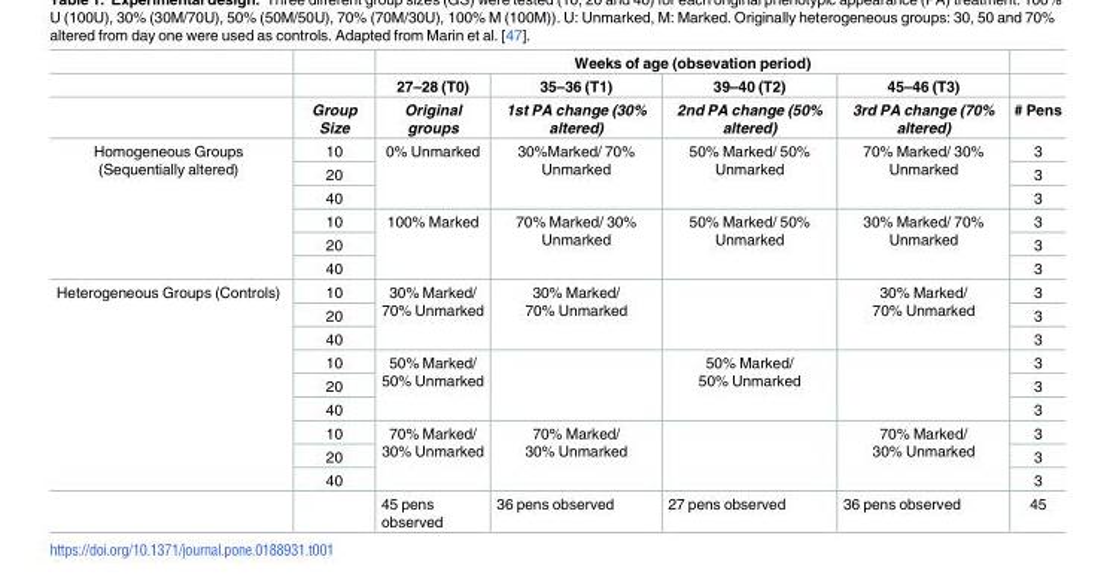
<table><thead><tr><td rowspan="3"></td><td rowspan="3">Group Size</td><td colspan="4">Weeks of age (obsevation period)</td><td rowspan="3"># Pens</td></tr><tr><td rowspan="2">27–28 (T0) Original groups</td><td rowspan="2">35–36 (T1) 1st PA change (30% altered)</td><td rowspan="2">39–40 (T2) 2nd PA change (50% altered)</td><td rowspan="2">45–46 (T3) 3rd PA change (70% altered)</td></tr><tr></tr></thead><tbody><tr><td rowspan="6">Homogeneous Groups (Sequentially altered)</td><td>10</td><td rowspan="3">0% Unmarked</td><td rowspan="3">30%Marked/ 70% Unmarked</td><td rowspan="3">50% Marked/ 50% Unmarked</td><td rowspan="3">70% Marked/ 30% Unmarked</td><td>3</td></tr><tr><td>20</td><td>3</td></tr><tr><td>40</td><td>3</td></tr><tr><td>10</td><td rowspan="3">100% Marked</td><td rowspan="3">70% Marked/ 30% Unmarked</td><td rowspan="3">50% Marked/ 50% Unmarked</td><td rowspan="3">30% Marked/ 70% Unmarked</td><td>3</td></tr><tr><td>20</td><td>3</td></tr><tr><td>40</td><td>3</td></tr><tr><td rowspan="10">Heterogeneous Groups (Controls)</td><td>10</td><td rowspan="3">30% Marked/ 70% Unmarked</td><td rowspan="3">30% Marked/ 70% Unmarked</td><td rowspan="3"></td><td rowspan="3">30% Marked/ 70% Unmarked</td><td>3</td></tr><tr><td>20</td><td>3</td></tr><tr><td>40</td><td>3</td></tr><tr><td>10</td><td rowspan="3">50% Marked/ 50% Unmarked</td><td rowspan="3"></td><td rowspan="3">50% Marked/ 50% Unmarked</td><td rowspan="3"></td><td>3</td></tr><tr><td>20</td><td>3</td></tr><tr><td>40</td><td>3</td></tr><tr><td>10</td><td rowspan="3">70% Marked/ 30% Unmarked</td><td rowspan="3">70% Marked/ 30% Unmarked</td><td rowspan="3"></td><td rowspan="3">70% Marked/ 30% Unmarked</td><td>3</td></tr><tr><td>20</td><td>3</td></tr><tr><td>40</td><td>3</td></tr><tr><td></td><td>45 pens observed</td><td>36 pens observed</td><td>27 pens observed</td><td>36 pens observed</td><td>45</td></tr></tbody></table>